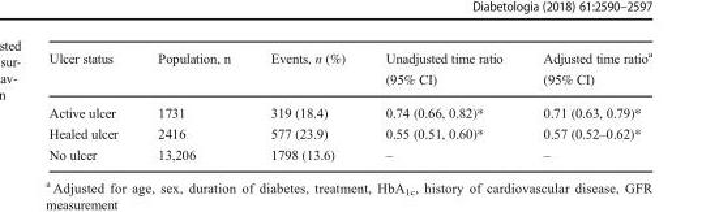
<table><thead><tr><td>Ulcer status</td><td>Population, n</td><td>Events, n (%)</td><td>Unadjusted time ratio (95% CI)</td><td>Adjusted time ratio<sup>a</sup> (95% CI)</td></tr></thead><tbody><tr><td>Active ulcer</td><td>1731</td><td>319 (18.4)</td><td>0.74 (0.66, 0.82)*</td><td>0.71 (0.63, 0.79)*</td></tr><tr><td>Healed ulcer</td><td>2416</td><td>577 (23.9)</td><td>0.55 (0.51, 0.60)*</td><td>0.57 (0.52–0.62)*</td></tr><tr><td>No ulcer</td><td>13,206</td><td>1798 (13.6)</td><td>–</td><td>–</td></tr></tbody></table>